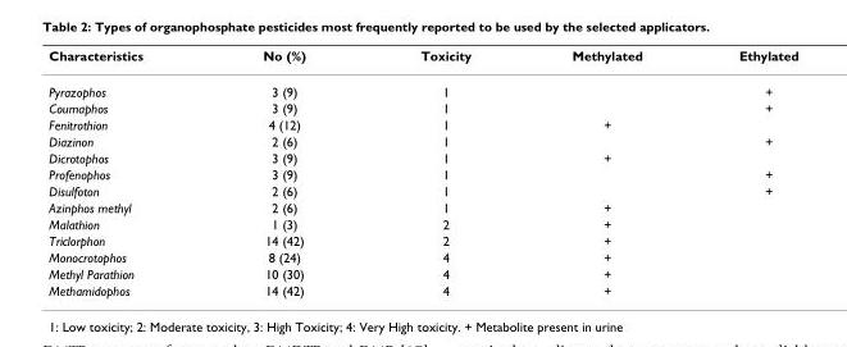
<table><thead><tr><td>Characteristics</td><td>No (%)</td><td>Toxicity</td><td>Methylated</td><td>Ethylated</td></tr></thead><tbody><tr><td>Pyrazophos</td><td>3 (9)</td><td>1</td><td></td><td>+</td></tr><tr><td>Coumaphos</td><td>3 (9)</td><td>1</td><td></td><td>+</td></tr><tr><td>Fenitrothion</td><td>4 (12)</td><td>1</td><td>+</td><td></td></tr><tr><td>Diazinon</td><td>2 (6)</td><td>1</td><td></td><td>+</td></tr><tr><td>Dicrotophos</td><td>3 (9)</td><td>1</td><td>+</td><td></td></tr><tr><td>Profenophos</td><td>3 (9)</td><td>1</td><td></td><td>+</td></tr><tr><td>Disulfoton</td><td>2 (6)</td><td>1</td><td></td><td>+</td></tr><tr><td>Azinphos methyl</td><td>2 (6)</td><td>1</td><td>+</td><td></td></tr><tr><td>Malathion</td><td>1 (3)</td><td>2</td><td>+</td><td></td></tr><tr><td>Triclorphon</td><td>14 (42)</td><td>2</td><td>+</td><td></td></tr><tr><td>Monocrotophos</td><td>8 (24)</td><td>4</td><td>+</td><td></td></tr><tr><td>Methyl Parathion</td><td>10 (30)</td><td>4</td><td>+</td><td></td></tr><tr><td>Methamidophos</td><td>14 (42)</td><td>4</td><td>+</td><td></td></tr></tbody></table>